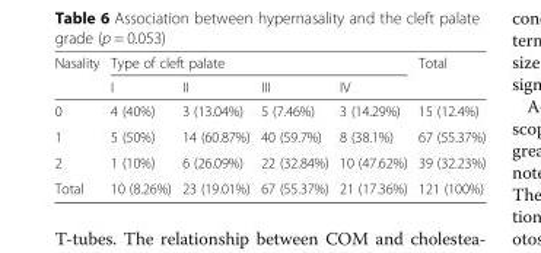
<table><thead><tr><td rowspan="2">Nasality</td><td colspan="4">Type of cleft palate</td><td rowspan="2">Total</td></tr><tr><td>I</td><td>II</td><td>III</td><td>IV</td></tr></thead><tbody><tr><td>0</td><td>4 (40%)</td><td>3 (13.04%)</td><td>5 (7.46%)</td><td>3 (14.29%)</td><td>15 (12.4%)</td></tr><tr><td>1</td><td>5 (50%)</td><td>14 (60.87%)</td><td>40 (59.7%)</td><td>8 (38.1%)</td><td>67 (55.37%)</td></tr><tr><td>2</td><td>1 (10%)</td><td>6 (26.09%)</td><td>22 (32.84%)</td><td>10 (47.62%)</td><td>39 (32.23%)</td></tr><tr><td>Total</td><td>10 (8.26%)</td><td>23 (19.01%)</td><td>67 (55.37%)</td><td>21 (17.36%)</td><td>121 (100%)</td></tr></tbody></table>